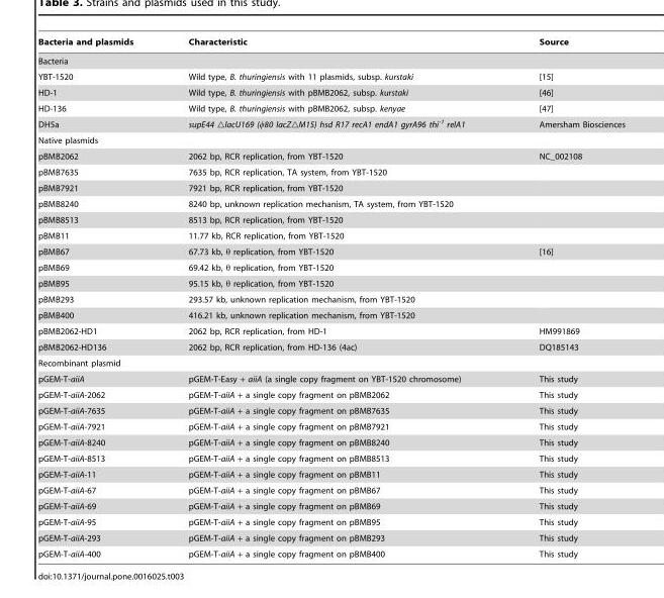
<table><thead><tr><td>Bacteria and plasmids</td><td>Characteristic</td><td>Source</td></tr></thead><tbody><tr><td colspan="3">Bacteria</td></tr><tr><td>YBT-1520</td><td>Wild type, B. thuringiensis with 11 plasmids, subsp. kurstaki</td><td>[15]</td></tr><tr><td>HD-1</td><td>Wild type, B. thuringiensis with pBMB2062, subsp. kurstaki</td><td>[46]</td></tr><tr><td>HD-136</td><td>Wild type, B. thuringiensis with pBMB2062, subsp. kenyae</td><td>[47]</td></tr><tr><td>DH5a</td><td>supE44 △lacU169 (φ80 lacZ△M15) hsd R17 recA1 endA1 gyrA96 thi<sup>-1</sup> relA1</td><td>Amersham Biosciences</td></tr><tr><td colspan="3">Native plasmids</td></tr><tr><td>pBMB2062</td><td>2062 bp, RCR replication, from YBT-1520</td><td>NC_002108</td></tr><tr><td>pBMB7635</td><td>7635 bp, RCR replication, TA system, from YBT-1520</td><td></td></tr><tr><td>pBMB7921</td><td>7921 bp, RCR replication, from YBT-1520</td><td></td></tr><tr><td>pBMB8240</td><td>8240 bp, unknown replication mechanism, TA system, from YBT-1520</td><td></td></tr><tr><td>pBMB8513</td><td>8513 bp, RCR replication, from YBT-1520</td><td></td></tr><tr><td>pBMB11</td><td>11.77 kb, RCR replication, from YBT-1520</td><td></td></tr><tr><td>pBMB67</td><td>67.73 kb, θ replication, from YBT-1520</td><td>[16]</td></tr><tr><td>pBMB69</td><td>69.42 kb, θ replication, from YBT-1520</td><td></td></tr><tr><td>pBMB95</td><td>95.15 kb, θ replication, from YBT-1520</td><td></td></tr><tr><td>pBMB293</td><td>293.57 kb, unknown replication mechanism, from YBT-1520</td><td></td></tr><tr><td>pBMB400</td><td>416.21 kb, unknown replication mechanism, from YBT-1520</td><td></td></tr><tr><td>pBMB2062-HD1</td><td>2062 bp, RCR replication, from HD-1</td><td>HM991869</td></tr><tr><td>pBMB2062-HD136</td><td>2062 bp, RCR replication, from HD-136 (4ac)</td><td>DQ185143</td></tr><tr><td colspan="3">Recombinant plasmid</td></tr><tr><td>pGEM-T-aiiA</td><td>pGEM-T-Easy + aiiA (a single copy fragment on YBT-1520 chromosome)</td><td>This study</td></tr><tr><td>pGEM-T-aiiA-2062</td><td>pGEM-T-aiiA + a single copy fragment on pBMB2062</td><td>This study</td></tr><tr><td>pGEM-T-aiiA-7635</td><td>pGEM-T-aiiA + a single copy fragment on pBMB7635</td><td>This study</td></tr><tr><td>pGEM-T-aiiA-7921</td><td>pGEM-T-aiiA + a single copy fragment on pBMB7921</td><td>This study</td></tr><tr><td>pGEM-T-aiiA-8240</td><td>pGEM-T-aiiA + a single copy fragment on pBMB8240</td><td>This study</td></tr><tr><td>pGEM-T-aiiA-8513</td><td>pGEM-T-aiiA + a single copy fragment on pBMB8513</td><td>This study</td></tr><tr><td>pGEM-T-aiiA-11</td><td>pGEM-T-aiiA + a single copy fragment on pBMB11</td><td>This study</td></tr><tr><td>pGEM-T-aiiA-67</td><td>pGEM-T-aiiA + a single copy fragment on pBMB67</td><td>This study</td></tr><tr><td>pGEM-T-aiiA-69</td><td>pGEM-T-aiiA + a single copy fragment on pBMB69</td><td>This study</td></tr><tr><td>pGEM-T-aiiA-95</td><td>pGEM-T-aiiA + a single copy fragment on pBMB95</td><td>This study</td></tr><tr><td>pGEM-T-aiiA-293</td><td>pGEM-T-aiiA + a single copy fragment on pBMB293</td><td>This study</td></tr><tr><td>pGEM-T-aiiA-400</td><td>pGEM-T-aiiA + a single copy fragment on pBMB400</td><td>This study</td></tr></tbody></table>